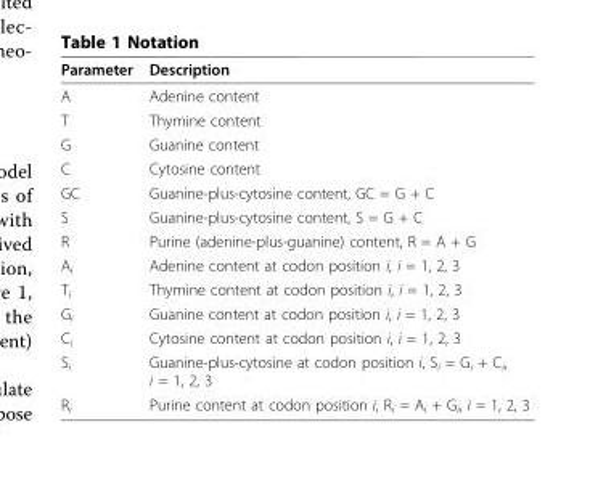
<table><thead><tr><td>Parameter</td><td>Description</td></tr></thead><tbody><tr><td>A</td><td>Adenine content</td></tr><tr><td>T</td><td>Thymine content</td></tr><tr><td>G</td><td>Guanine content</td></tr><tr><td>C</td><td>Cytosine content</td></tr><tr><td>GC</td><td>Guanine-plus-cytosine content, GC = G + C</td></tr><tr><td>S</td><td>Guanine-plus-cytosine content, S = G + C</td></tr><tr><td>R</td><td>Purine (adenine-plus-guanine) content, R = A + G</td></tr><tr><td>A<sub>i</sub></td><td>Adenine content at codon position i, i = 1, 2, 3</td></tr><tr><td>T<sub>i</sub></td><td>Thymine content at codon position i, i = 1, 2, 3</td></tr><tr><td>G<sub>i</sub></td><td>Guanine content at codon position i, i = 1, 2, 3</td></tr><tr><td>C<sub>i</sub></td><td>Cytosine content at codon position i, i = 1, 2, 3</td></tr><tr><td>S<sub>i</sub></td><td>Guanine-plus-cytosine at codon position i, S<sub>i</sub> = G<sub>i</sub> + C<sub>i</sub>, i = 1, 2, 3</td></tr><tr><td>R<sub>i</sub></td><td>Purine content at codon position i, R<sub>i</sub> = A<sub>i</sub> + G<sub>i</sub>, i = 1, 2, 3</td></tr></tbody></table>